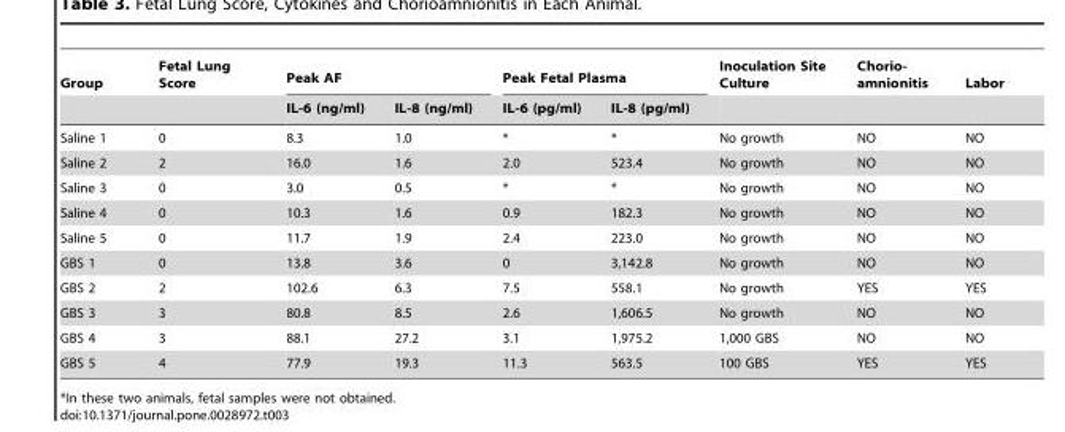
<table><thead><tr><td rowspan="2">Group</td><td rowspan="2">Fetal Lung Score</td><td colspan="2">Peak AF</td><td colspan="2">Peak Fetal Plasma</td><td rowspan="2">Inoculation Site Culture</td><td rowspan="2">Chorio- amnionitis</td><td rowspan="2">Labor</td></tr><tr><td>IL-6 (ng/ml)</td><td>IL-8 (ng/ml)</td><td>IL-6 (pg/ml)</td><td>IL-8 (pg/ml)</td></tr></thead><tbody><tr><td>Saline 1</td><td>0</td><td>8.3</td><td>1.0</td><td>*</td><td>*</td><td>No growth</td><td>NO</td><td>NO</td></tr><tr><td>Saline 2</td><td>2</td><td>16.0</td><td>1.6</td><td>2.0</td><td>523.4</td><td>No growth</td><td>NO</td><td>NO</td></tr><tr><td>Saline 3</td><td>0</td><td>3.0</td><td>0.5</td><td>*</td><td>*</td><td>No growth</td><td>NO</td><td>NO</td></tr><tr><td>Saline 4</td><td>0</td><td>10.3</td><td>1.6</td><td>0.9</td><td>182.3</td><td>No growth</td><td>NO</td><td>NO</td></tr><tr><td>Saline 5</td><td>0</td><td>11.7</td><td>1.9</td><td>2.4</td><td>223.0</td><td>No growth</td><td>NO</td><td>NO</td></tr><tr><td>GBS 1</td><td>0</td><td>13.8</td><td>3.6</td><td>0</td><td>3,142.8</td><td>No growth</td><td>NO</td><td>NO</td></tr><tr><td>GBS 2</td><td>2</td><td>102.6</td><td>6.3</td><td>7.5</td><td>558.1</td><td>No growth</td><td>YES</td><td>YES</td></tr><tr><td>GBS 3</td><td>3</td><td>80.8</td><td>8.5</td><td>2.6</td><td>1,606.5</td><td>No growth</td><td>NO</td><td>NO</td></tr><tr><td>GBS 4</td><td>3</td><td>88.1</td><td>27.2</td><td>3.1</td><td>1,975.2</td><td>1,000 GBS</td><td>NO</td><td>NO</td></tr><tr><td>GBS 5</td><td>4</td><td>77.9</td><td>19.3</td><td>11.3</td><td>563.5</td><td>100 GBS</td><td>YES</td><td>YES</td></tr></tbody></table>